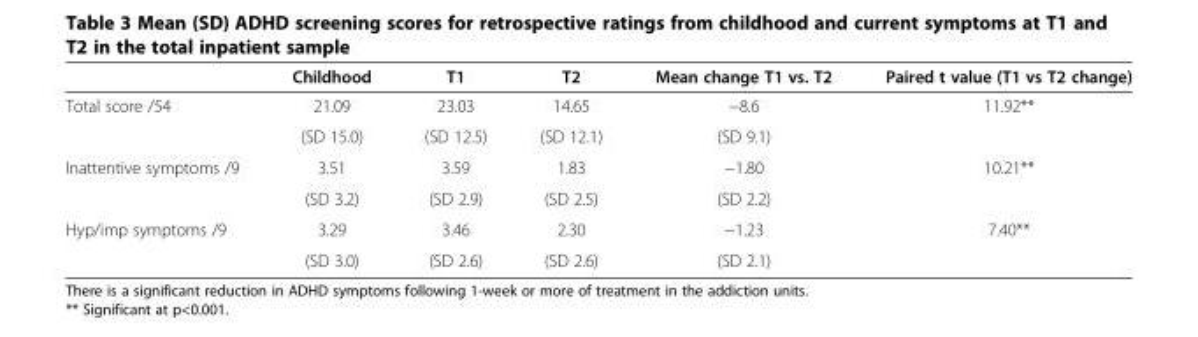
<table><thead><tr><td></td><td>Childhood</td><td>T1</td><td>T2</td><td>Mean change T1 vs. T2</td><td>Paired t value (T1 vs T2 change)</td></tr></thead><tbody><tr><td rowspan="2">Total score /54</td><td>21.09</td><td>23.03</td><td>14.65</td><td>−8.6</td><td>11.92**</td></tr><tr><td>(SD 15.0)</td><td>(SD 12.5)</td><td>(SD 12.1)</td><td>(SD 9.1)</td><td></td></tr><tr><td rowspan="2">Inattentive symptoms /9</td><td>3.51</td><td>3.59</td><td>1.83</td><td>−1.80</td><td>10.21**</td></tr><tr><td>(SD 3.2)</td><td>(SD 2.9)</td><td>(SD 2.5)</td><td>(SD 2.2)</td><td></td></tr><tr><td rowspan="2">Hyp/imp symptoms /9</td><td>3.29</td><td>3.46</td><td>2.30</td><td>−1.23</td><td>7.40**</td></tr><tr><td>(SD 3.0)</td><td>(SD 2.6)</td><td>(SD 2.6)</td><td>(SD 2.1)</td><td></td></tr></tbody></table>